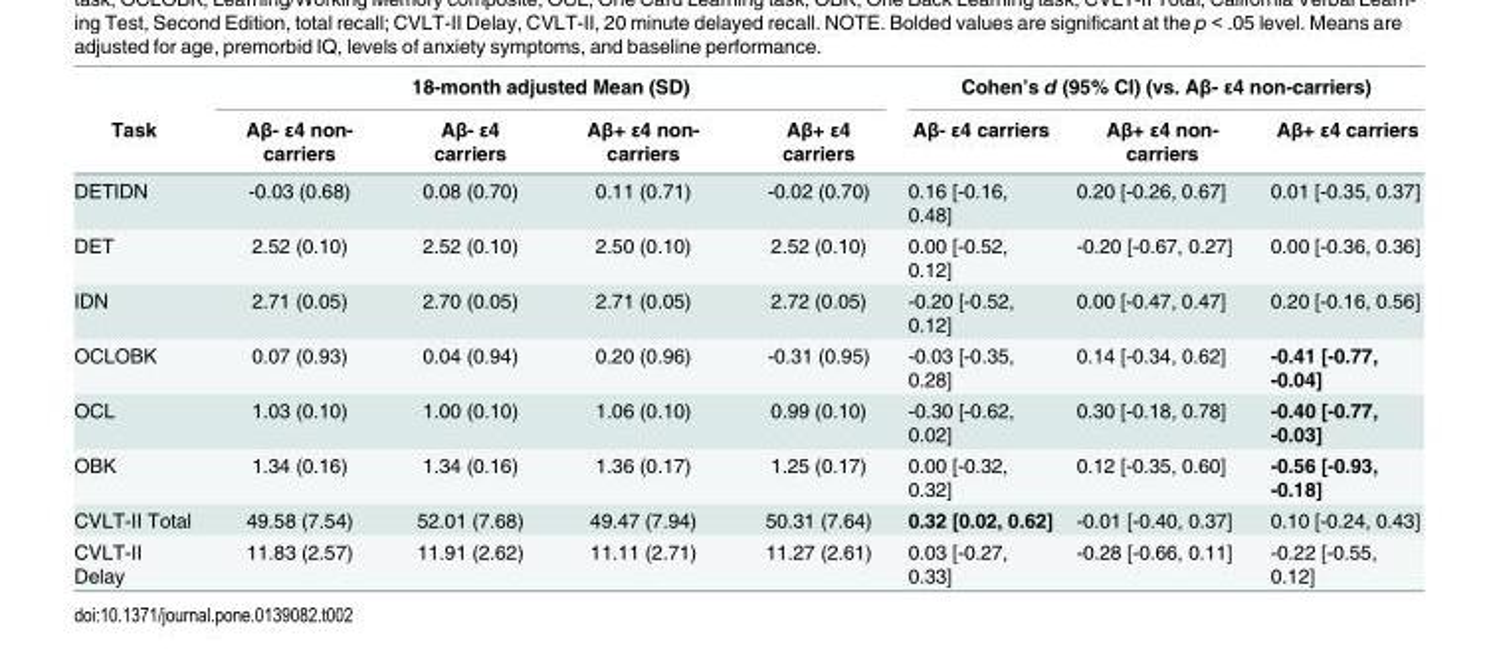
<table><thead><tr><td rowspan="2">Task</td><td colspan="4">18-month adjusted Mean (SD)</td><td colspan="3">Cohen’s d (95% CI) (vs. Aβ- ε4 non-carriers)</td></tr><tr><td>Aβ- ε4 non- carriers</td><td>Aβ- ε4 carriers</td><td>Aβ+ ε4 non- carriers</td><td>Aβ+ ε4 carriers</td><td>Aβ- ε4 carriers</td><td>Aβ+ ε4 non- carriers</td><td>Aβ+ ε4 carriers</td></tr></thead><tbody><tr><td>DETIDN</td><td>-0.03 (0.68)</td><td>0.08 (0.70)</td><td>0.11 (0.71)</td><td>-0.02 (0.70)</td><td>0.16 [-0.16, 0.48]</td><td>0.20 [-0.26, 0.67]</td><td>0.01 [-0.35, 0.37]</td></tr><tr><td>DET</td><td>2.52 (0.10)</td><td>2.52 (0.10)</td><td>2.50 (0.10)</td><td>2.52 (0.10)</td><td>0.00 [-0.52, 0.12]</td><td>-0.20 [-0.67, 0.27]</td><td>0.00 [-0.36, 0.36]</td></tr><tr><td>IDN</td><td>2.71 (0.05)</td><td>2.70 (0.05)</td><td>2.71 (0.05)</td><td>2.72 (0.05)</td><td>-0.20 [-0.52, 0.12]</td><td>0.00 [-0.47, 0.47]</td><td>0.20 [-0.16, 0.56]</td></tr><tr><td>OCLOBK</td><td>0.07 (0.93)</td><td>0.04 (0.94)</td><td>0.20 (0.96)</td><td>-0.31 (0.95)</td><td>-0.03 [-0.35, 0.28]</td><td>0.14 [-0.34, 0.62]</td><td>-0.41 [-0.77, -0.04]</td></tr><tr><td>OCL</td><td>1.03 (0.10)</td><td>1.00 (0.10)</td><td>1.06 (0.10)</td><td>0.99 (0.10)</td><td>-0.30 [-0.62, 0.02]</td><td>0.30 [-0.18, 0.78]</td><td>-0.40 [-0.77, -0.03]</td></tr><tr><td>OBK</td><td>1.34 (0.16)</td><td>1.34 (0.16)</td><td>1.36 (0.17)</td><td>1.25 (0.17)</td><td>0.00 [-0.32, 0.32]</td><td>0.12 [-0.35, 0.60]</td><td>-0.56 [-0.93, -0.18]</td></tr><tr><td>CVLT-II Total</td><td>49.58 (7.54)</td><td>52.01 (7.68)</td><td>49.47 (7.94)</td><td>50.31 (7.64)</td><td>0.32 [0.02, 0.62]</td><td>-0.01 [-0.40, 0.37]</td><td>0.10 [-0.24, 0.43]</td></tr><tr><td>CVLT-II Delay</td><td>11.83 (2.57)</td><td>11.91 (2.62)</td><td>11.11 (2.71)</td><td>11.27 (2.61)</td><td>0.03 [-0.27, 0.33]</td><td>-0.28 [-0.66, 0.11]</td><td>-0.22 [-0.55, 0.12]</td></tr></tbody></table>